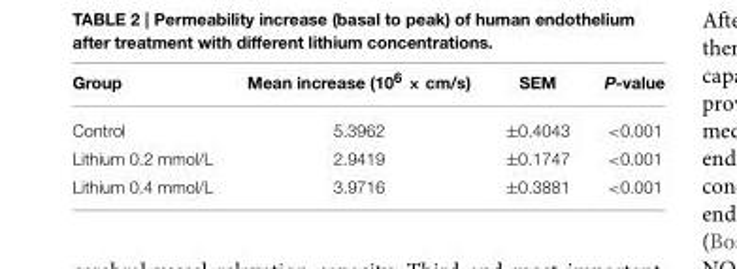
<table><thead><tr><td>Group</td><td>Mean increase (10<sup>6</sup> × cm/s)</td><td>SEM</td><td>P-value</td></tr></thead><tbody><tr><td>Control</td><td>5.3962</td><td>±0.4043</td><td>&lt;0.001</td></tr><tr><td>Lithium 0.2 mmol/L</td><td>2.9419</td><td>±0.1747</td><td>&lt;0.001</td></tr><tr><td>Lithium 0.4 mmol/L</td><td>3.9716</td><td>±0.3881</td><td>&lt;0.001</td></tr></tbody></table>